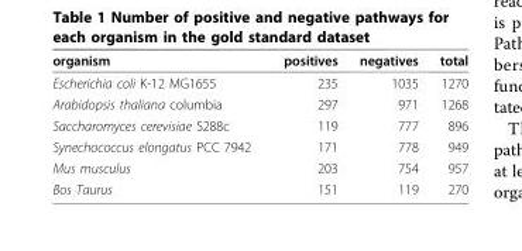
<table><thead><tr><td>organism</td><td>positives</td><td>negatives</td><td>total</td></tr></thead><tbody><tr><td>Escherichia coli K-12 MG1655</td><td>235</td><td>1035</td><td>1270</td></tr><tr><td>Arabidopsis thaliana columbia</td><td>297</td><td>971</td><td>1268</td></tr><tr><td>Saccharomyces cerevisiae S288c</td><td>119</td><td>777</td><td>896</td></tr><tr><td>Synechococcus elongatus PCC 7942</td><td>171</td><td>778</td><td>949</td></tr><tr><td>Mus musculus</td><td>203</td><td>754</td><td>957</td></tr><tr><td>Bos Taurus</td><td>151</td><td>119</td><td>270</td></tr></tbody></table>